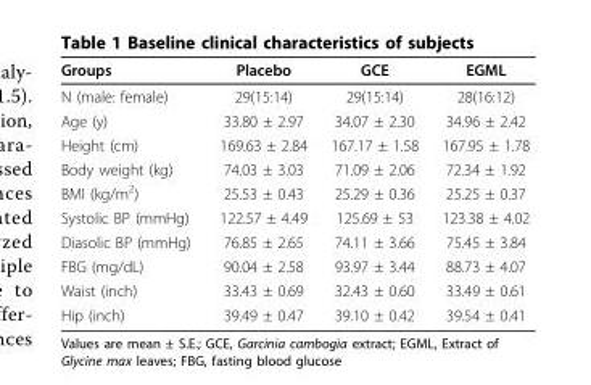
<table><thead><tr><td>Groups</td><td>Placebo</td><td>GCE</td><td>EGML</td></tr></thead><tbody><tr><td>N (male: female)</td><td>29(15:14)</td><td>29(15:14)</td><td>28(16:12)</td></tr><tr><td>Age (y)</td><td>33.80 ± 2.97</td><td>34.07 ± 2.30</td><td>34.96 ± 2.42</td></tr><tr><td>Height (cm)</td><td>169.63 ± 2.84</td><td>167.17 ± 1.58</td><td>167.95 ± 1.78</td></tr><tr><td>Body weight (kg)</td><td>74.03 ± 3.03</td><td>71.09 ± 2.06</td><td>72.34 ± 1.92</td></tr><tr><td>BMI (kg/m<sup>2</sup>)</td><td>25.53 ± 0.43</td><td>25.29 ± 0.36</td><td>25.25 ± 0.37</td></tr><tr><td>Systolic BP (mmHg)</td><td>122.57 ± 4.49</td><td>125.69 ± 53</td><td>123.38 ± 4.02</td></tr><tr><td>Diasolic BP (mmHg)</td><td>76.85 ± 2.65</td><td>74.11 ± 3.66</td><td>75.45 ± 3.84</td></tr><tr><td>FBG (mg/dL)</td><td>90.04 ± 2.58</td><td>93.97 ± 3.44</td><td>88.73 ± 4.07</td></tr><tr><td>Waist (inch)</td><td>33.43 ± 0.69</td><td>32.43 ± 0.60</td><td>33.49 ± 0.61</td></tr><tr><td>Hip (inch)</td><td>39.49 ± 0.47</td><td>39.10 ± 0.42</td><td>39.54 ± 0.41</td></tr></tbody></table>